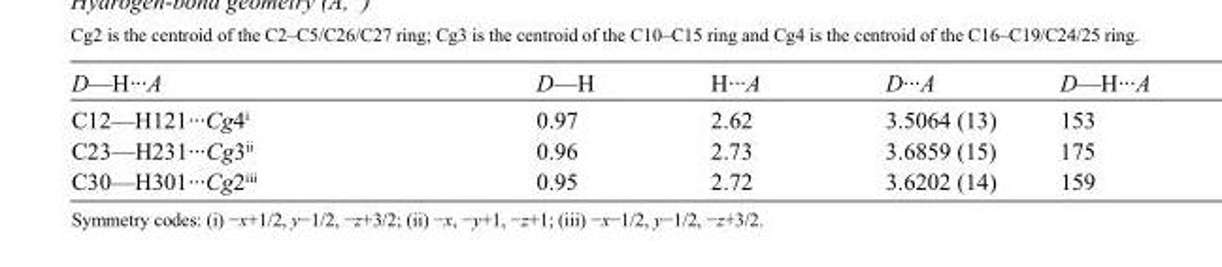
<table><tbody><tr><td>D—H···A</td><td>D—H</td><td>H···A</td><td>D···A</td><td>D—H···A</td></tr><tr><td>C12—H121···Cg4<sup>i</sup></td><td>0.97</td><td>2.62</td><td>3.5064 (13)</td><td>153</td></tr><tr><td>C23—H231···Cg3<sup>ii</sup></td><td>0.96</td><td>2.73</td><td>3.6859 (15)</td><td>175</td></tr><tr><td>C30—H301···Cg2<sup>iii</sup></td><td>0.95</td><td>2.72</td><td>3.6202 (14)</td><td>159</td></tr></tbody></table>